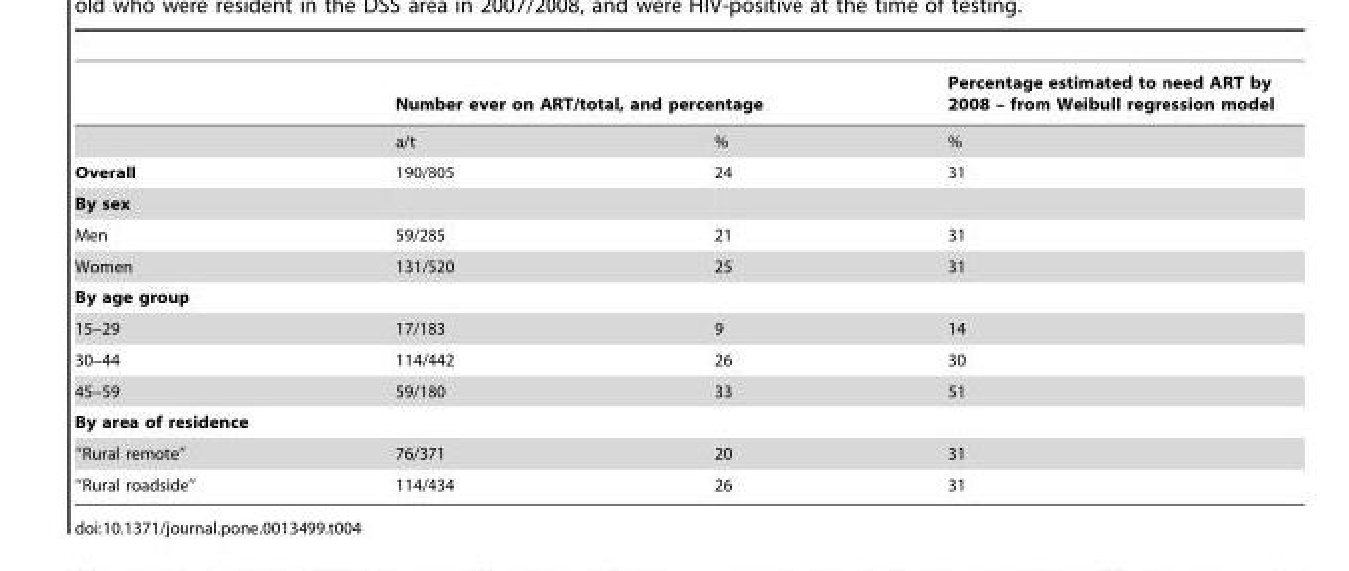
<table><thead><tr><td rowspan="2"></td><td colspan="2">Number ever on ART/total, and percentage</td><td rowspan="2">Percentage estimated to need ART by 2008 – from Weibull regression model %</td></tr><tr><td>a/t</td><td>%</td></tr></thead><tbody><tr><td>Overall</td><td>190/805</td><td>24</td><td>31</td></tr><tr><td colspan="4">By sex</td></tr><tr><td>Men</td><td>59/285</td><td>21</td><td>31</td></tr><tr><td>Women</td><td>131/520</td><td>25</td><td>31</td></tr><tr><td colspan="4">By age group</td></tr><tr><td>15–29</td><td>17/183</td><td>9</td><td>14</td></tr><tr><td>30–44</td><td>114/442</td><td>26</td><td>30</td></tr><tr><td>45–59</td><td>59/180</td><td>33</td><td>51</td></tr><tr><td colspan="4">By area of residence</td></tr><tr><td>‘‘Rural remote’’</td><td>76/371</td><td>20</td><td>31</td></tr><tr><td>‘‘Rural roadside’’</td><td>114/434</td><td>26</td><td>31</td></tr></tbody></table>